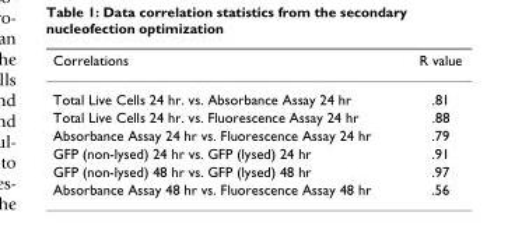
<table><thead><tr><td>Correlations</td><td>R value</td></tr></thead><tbody><tr><td>Total Live Cells 24 hr. vs. Absorbance Assay 24 hr</td><td>.81</td></tr><tr><td>Total Live Cells 24 hr. vs. Fluorescence Assay 24 hr</td><td>.88</td></tr><tr><td>Absorbance Assay 24 hr vs. Fluorescence Assay 24 hr</td><td>.79</td></tr><tr><td>GFP (non-lysed) 24 hr vs. GFP (lysed) 24 hr</td><td>.91</td></tr><tr><td>GFP (non-lysed) 48 hr vs. GFP (lysed) 48 hr</td><td>.97</td></tr><tr><td>Absorbance Assay 48 hr vs. Fluorescence Assay 48 hr</td><td>.56</td></tr></tbody></table>